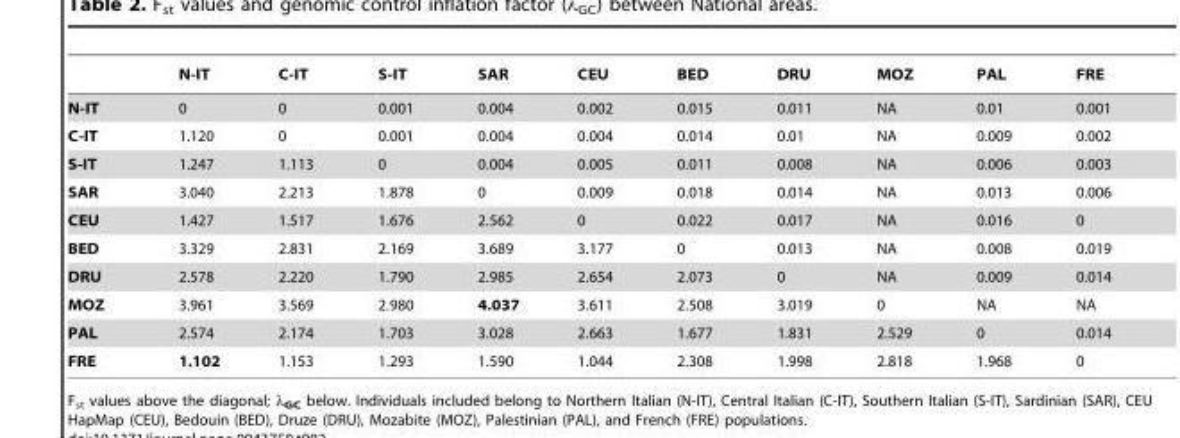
<table><thead><tr><td></td><td>N-IT</td><td>C-IT</td><td>S-IT</td><td>SAR</td><td>CEU</td><td>BED</td><td>DRU</td><td>MOZ</td><td>PAL</td><td>FRE</td></tr></thead><tbody><tr><td>N-IT</td><td>0</td><td>0</td><td>0.001</td><td>0.004</td><td>0.002</td><td>0.015</td><td>0.011</td><td>NA</td><td>0.01</td><td>0.001</td></tr><tr><td>C-IT</td><td>1.120</td><td>0</td><td>0.001</td><td>0.004</td><td>0.004</td><td>0.014</td><td>0.01</td><td>NA</td><td>0.009</td><td>0.002</td></tr><tr><td>S-IT</td><td>1.247</td><td>1.113</td><td>0</td><td>0.004</td><td>0.005</td><td>0.011</td><td>0.008</td><td>NA</td><td>0.006</td><td>0.003</td></tr><tr><td>SAR</td><td>3.040</td><td>2.213</td><td>1.878</td><td>0</td><td>0.009</td><td>0.018</td><td>0.014</td><td>NA</td><td>0.013</td><td>0.006</td></tr><tr><td>CEU</td><td>1.427</td><td>1.517</td><td>1.676</td><td>2.562</td><td>0</td><td>0.022</td><td>0.017</td><td>NA</td><td>0.016</td><td>0</td></tr><tr><td>BED</td><td>3.329</td><td>2.831</td><td>2.169</td><td>3.689</td><td>3.177</td><td>0</td><td>0.013</td><td>NA</td><td>0.008</td><td>0.019</td></tr><tr><td>DRU</td><td>2.578</td><td>2.220</td><td>1.790</td><td>2.985</td><td>2.654</td><td>2.073</td><td>0</td><td>NA</td><td>0.009</td><td>0.014</td></tr><tr><td>MOZ</td><td>3.961</td><td>3.569</td><td>2.980</td><td>4.037</td><td>3.611</td><td>2.508</td><td>3.019</td><td>0</td><td>NA</td><td>NA</td></tr><tr><td>PAL</td><td>2.574</td><td>2.174</td><td>1.703</td><td>3.028</td><td>2.663</td><td>1.677</td><td>1.831</td><td>2.529</td><td>0</td><td>0.014</td></tr><tr><td>FRE</td><td>1.102</td><td>1.153</td><td>1.293</td><td>1.590</td><td>1.044</td><td>2.308</td><td>1.998</td><td>2.818</td><td>1.968</td><td>0</td></tr></tbody></table>